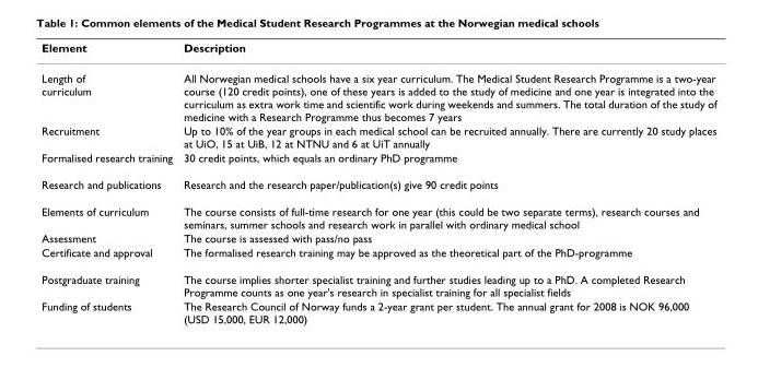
<table><thead><tr><td>Element</td><td>Description</td></tr></thead><tbody><tr><td>Length of curriculum</td><td>All Norwegian medical schools have a six year curriculum. The Medical Student Research Programme is a two-year course (120 credit points), one of these years is added to the study of medicine and one year is integrated into the curriculum as extra work time and scientific work during weekends and summers. The total duration of the study of medicine with a Research Programme thus becomes 7 years</td></tr><tr><td>Recruitment</td><td>Up to 10% of the year groups in each medical school can be recruited annually. There are currently 20 study places at UiO, 15 at UiB, 12 at NTNU and 6 at UiT annually</td></tr><tr><td>Formalised research training</td><td>30 credit points, which equals an ordinary PhD programme</td></tr><tr><td>Research and publications</td><td>Research and the research paper/publication(s) give 90 credit points</td></tr><tr><td>Elements of curriculum</td><td>The course consists of full-time research for one year (this could be two separate terms), research courses and seminars, summer schools and research work in parallel with ordinary medical school</td></tr><tr><td>Assessment</td><td>The course is assessed with pass/no pass</td></tr><tr><td>Certificate and approval</td><td>The formalised research training may be approved as the theoretical part of the PhD-programme</td></tr><tr><td>Postgraduate training</td><td>The course implies shorter specialist training and further studies leading up to a PhD. A completed Research Programme counts as one year&#x27;s research in specialist training for all specialist fields</td></tr><tr><td>Funding of students</td><td>The Research Council of Norway funds a 2-year grant per student. The annual grant for 2008 is NOK 96,000 (USD 15,000, EUR 12,000)</td></tr></tbody></table>